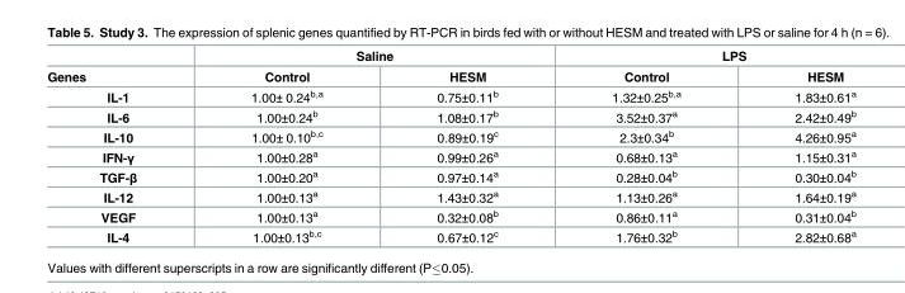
<table><thead><tr><td rowspan="2">Genes</td><td colspan="2">Saline</td><td colspan="2">LPS</td></tr><tr><td>Control</td><td>HESM</td><td>Control</td><td>HESM</td></tr></thead><tbody><tr><td>IL-1</td><td>1.00± 0.24<sup>b,a</sup></td><td>0.75±0.11<sup>b</sup></td><td>1.32±0.25<sup>b,a</sup></td><td>1.83±0.61<sup>a</sup></td></tr><tr><td>IL-6</td><td>1.00±0.24<sup>b</sup></td><td>1.08±0.17<sup>b</sup></td><td>3.52±0.37<sup>a</sup></td><td>2.42±0.49<sup>b</sup></td></tr><tr><td>IL-10</td><td>1.00± 0.10<sup>b,c</sup></td><td>0.89±0.19<sup>c</sup></td><td>2.3±0.34<sup>b</sup></td><td>4.26±0.95<sup>a</sup></td></tr><tr><td>IFN-γ</td><td>1.00±0.28<sup>a</sup></td><td>0.99±0.26<sup>a</sup></td><td>0.68±0.13<sup>a</sup></td><td>1.15±0.31<sup>a</sup></td></tr><tr><td>TGF-β</td><td>1.00±0.20<sup>a</sup></td><td>0.97±0.14<sup>a</sup></td><td>0.28±0.04<sup>b</sup></td><td>0.30±0.04<sup>b</sup></td></tr><tr><td>IL-12</td><td>1.00±0.13<sup>a</sup></td><td>1.43±0.32<sup>a</sup></td><td>1.13±0.26<sup>a</sup></td><td>1.64±0.19<sup>a</sup></td></tr><tr><td>VEGF</td><td>1.00±0.13<sup>a</sup></td><td>0.32±0.08<sup>b</sup></td><td>0.86±0.11<sup>a</sup></td><td>0.31±0.04<sup>b</sup></td></tr><tr><td>IL-4</td><td>1.00±0.13<sup>b,c</sup></td><td>0.67±0.12<sup>c</sup></td><td>1.76±0.32<sup>b</sup></td><td>2.82±0.68<sup>a</sup></td></tr></tbody></table>